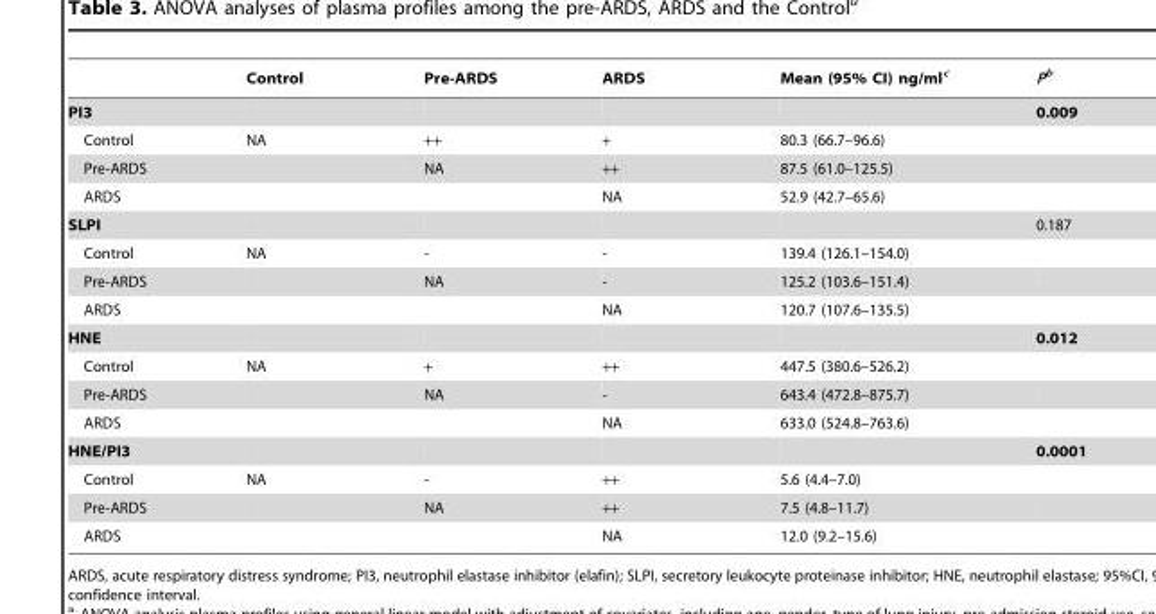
<table><thead><tr><td></td><td>Control</td><td>Pre-ARDS</td><td>ARDS</td><td>Mean (95% CI) ng/ml<sup>c</sup></td><td>Pb</td></tr></thead><tbody><tr><td>PI3</td><td></td><td></td><td></td><td></td><td>0.009</td></tr><tr><td>Control</td><td>NA</td><td>++</td><td>+</td><td>80.3 (66.7–96.6)</td><td></td></tr><tr><td>Pre-ARDS</td><td></td><td>NA</td><td>++</td><td>87.5 (61.0–125.5)</td><td></td></tr><tr><td>ARDS</td><td></td><td></td><td>NA</td><td>52.9 (42.7–65.6)</td><td></td></tr><tr><td>SLPI</td><td></td><td></td><td></td><td></td><td>0.187</td></tr><tr><td>Control</td><td>NA</td><td>-</td><td>-</td><td>139.4 (126.1–154.0)</td><td></td></tr><tr><td>Pre-ARDS</td><td></td><td>NA</td><td>-</td><td>125.2 (103.6–151.4)</td><td></td></tr><tr><td>ARDS</td><td></td><td></td><td>NA</td><td>120.7 (107.6–135.5)</td><td></td></tr><tr><td>HNE</td><td></td><td></td><td></td><td></td><td>0.012</td></tr><tr><td>Control</td><td>NA</td><td>+</td><td>++</td><td>447.5 (380.6–526.2)</td><td></td></tr><tr><td>Pre-ARDS</td><td></td><td>NA</td><td>-</td><td>643.4 (472.8–875.7)</td><td></td></tr><tr><td>ARDS</td><td></td><td></td><td>NA</td><td>633.0 (524.8–763.6)</td><td></td></tr><tr><td>HNE/PI3</td><td></td><td></td><td></td><td></td><td>0.0001</td></tr><tr><td>Control</td><td>NA</td><td>-</td><td>++</td><td>5.6 (4.4–7.0)</td><td></td></tr><tr><td>Pre-ARDS</td><td></td><td>NA</td><td>++</td><td>7.5 (4.8–11.7)</td><td></td></tr><tr><td>ARDS</td><td></td><td></td><td>NA</td><td>12.0 (9.2–15.6)</td><td></td></tr></tbody></table>